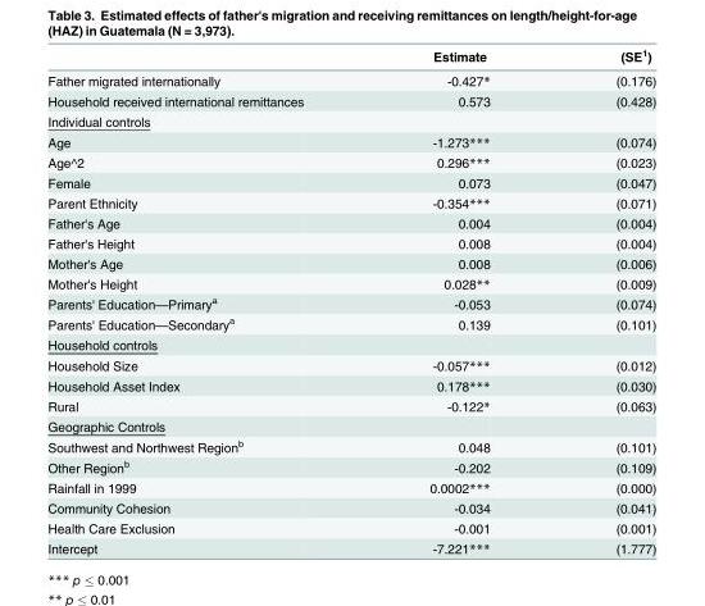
<table><thead><tr><td></td><td>Estimate</td><td>(SE<sup>1</sup>)</td></tr></thead><tbody><tr><td>Father migrated internationally</td><td>-0.427*</td><td>(0.176)</td></tr><tr><td>Household received international remittances</td><td>0.573</td><td>(0.428)</td></tr><tr><td colspan="3">Individual controls</td></tr><tr><td>Age</td><td>-1.273***</td><td>(0.074)</td></tr><tr><td>Age^2</td><td>0.296***</td><td>(0.023)</td></tr><tr><td>Female</td><td>0.073</td><td>(0.047)</td></tr><tr><td>Parent Ethnicity</td><td>-0.354***</td><td>(0.071)</td></tr><tr><td>Father&#x27;s Age</td><td>0.004</td><td>(0.004)</td></tr><tr><td>Father&#x27;s Height</td><td>0.008</td><td>(0.004)</td></tr><tr><td>Mother&#x27;s Age</td><td>0.008</td><td>(0.006)</td></tr><tr><td>Mother&#x27;s Height</td><td>0.028**</td><td>(0.009)</td></tr><tr><td>Parents&#x27; Education—Primary<sup>a</sup></td><td>-0.053</td><td>(0.074)</td></tr><tr><td>Parents&#x27; Education—Secondary<sup>a</sup></td><td>0.139</td><td>(0.101)</td></tr><tr><td colspan="3">Household controls</td></tr><tr><td>Household Size</td><td>-0.057***</td><td>(0.012)</td></tr><tr><td>Household Asset Index</td><td>0.178***</td><td>(0.030)</td></tr><tr><td>Rural</td><td>-0.122*</td><td>(0.063)</td></tr><tr><td colspan="3">Geographic Controls</td></tr><tr><td>Southwest and Northwest Region<sup>b</sup></td><td>0.048</td><td>(0.101)</td></tr><tr><td>Other Region<sup>b</sup></td><td>-0.202</td><td>(0.109)</td></tr><tr><td>Rainfall in 1999</td><td>0.0002***</td><td>(0.000)</td></tr><tr><td>Community Cohesion</td><td>-0.034</td><td>(0.041)</td></tr><tr><td>Health Care Exclusion</td><td>-0.001</td><td>(0.001)</td></tr><tr><td>Intercept</td><td>-7.221***</td><td>(1.777)</td></tr></tbody></table>